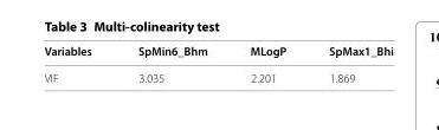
<table><thead><tr><td>Variables</td><td>SpMin6_Bhm</td><td>MLogP</td><td>SpMax1_Bhi</td></tr></thead><tbody><tr><td>VIF</td><td>3.035</td><td>2.201</td><td>1.869</td></tr></tbody></table>